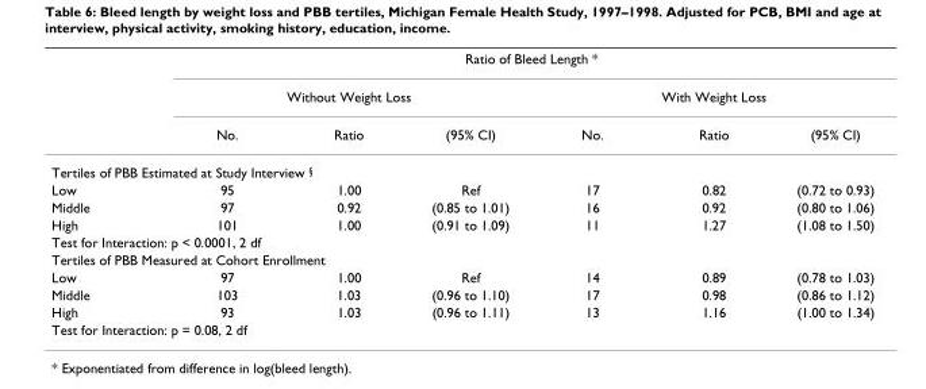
<table><thead><tr><td rowspan="3"></td><td colspan="6">Ratio of Bleed Length *</td></tr><tr><td colspan="3">Without Weight Loss</td><td colspan="3">With Weight Loss</td></tr><tr><td>No.</td><td>Ratio</td><td>(95% CI)</td><td>No.</td><td>Ratio</td><td>(95% CI)</td></tr></thead><tbody><tr><td colspan="7">Tertiles of PBB Estimated at Study Interview <sup>§</sup></td></tr><tr><td>Low</td><td>95</td><td>1.00</td><td>Ref</td><td>17</td><td>0.82</td><td>(0.72 to 0.93)</td></tr><tr><td>Middle</td><td>97</td><td>0.92</td><td>(0.85 to 1.01)</td><td>16</td><td>0.92</td><td>(0.80 to 1.06)</td></tr><tr><td>High</td><td>101</td><td>1.00</td><td>(0.91 to 1.09)</td><td>11</td><td>1.27</td><td>(1.08 to 1.50)</td></tr><tr><td colspan="7">Test for Interaction: p &lt; 0.0001, 2 df</td></tr><tr><td colspan="7">Tertiles of PBB Measured at Cohort Enrollment</td></tr><tr><td>Low</td><td>97</td><td>1.00</td><td>Ref</td><td>14</td><td>0.89</td><td>(0.78 to 1.03)</td></tr><tr><td>Middle</td><td>103</td><td>1.03</td><td>(0.96 to 1.10)</td><td>17</td><td>0.98</td><td>(0.86 to 1.12)</td></tr><tr><td>High</td><td>93</td><td>1.03</td><td>(0.96 to 1.11)</td><td>13</td><td>1.16</td><td>(1.00 to 1.34)</td></tr><tr><td colspan="7">Test for Interaction: p = 0.08, 2 df</td></tr></tbody></table>